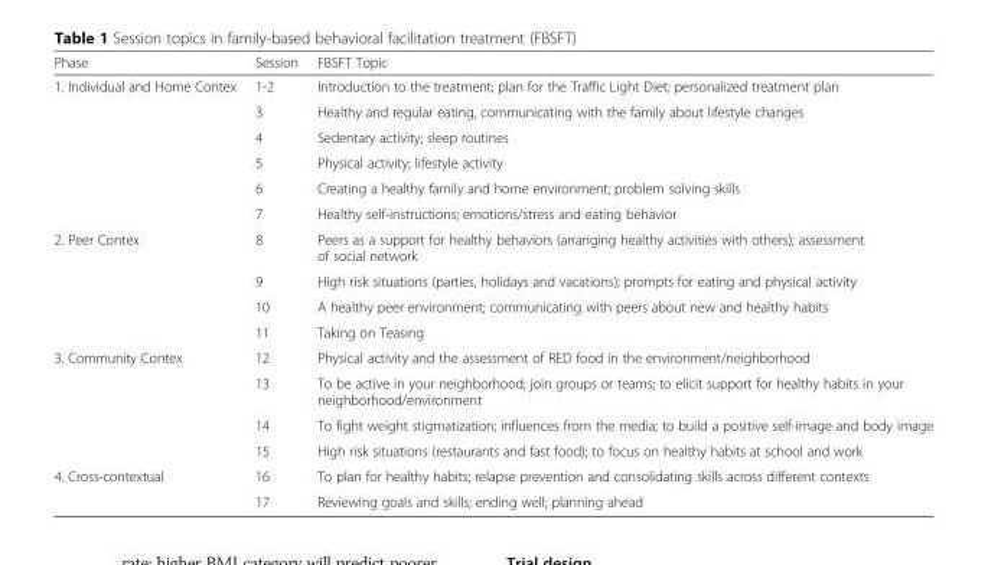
<table><thead><tr><td>Phase</td><td>Session</td><td>FBSFT Topic</td></tr></thead><tbody><tr><td rowspan="6">1. Individual and Home Contex</td><td>1-2</td><td>Introduction to the treatment; plan for the Traffic Light Diet; personalized treatment plan</td></tr><tr><td>3</td><td>Healthy and regular eating, communicating with the family about lifestyle changes</td></tr><tr><td>4</td><td>Sedentary activity; sleep routines</td></tr><tr><td>5</td><td>Physical activity; lifestyle activity</td></tr><tr><td>6</td><td>Creating a healthy family and home environment; problem solving skills</td></tr><tr><td>7</td><td>Healthy self-instructions; emotions/stress and eating behavior</td></tr><tr><td rowspan="4">2. Peer Contex</td><td>8</td><td>Peers as a support for healthy behaviors (arranging healthy activities with others); assessment of social network</td></tr><tr><td>9</td><td>High risk situations (parties, holidays and vacations); prompts for eating and physical activity</td></tr><tr><td>10</td><td>A healthy peer environment; communicating with peers about new and healthy habits</td></tr><tr><td>11</td><td>Taking on Teasing</td></tr><tr><td rowspan="4">3. Community Contex</td><td>12</td><td>Physical activity and the assessment of RED food in the environment/neighborhood</td></tr><tr><td>13</td><td>To be active in your neighborhood; join groups or teams; to elicit support for healthy habits in your neighborhood/environment</td></tr><tr><td>14</td><td>To fight weight stigmatization; influences from the media; to build a positive self-image and body image</td></tr><tr><td>15</td><td>High risk situations (restaurants and fast food); to focus on healthy habits at school and work</td></tr><tr><td rowspan="2">4. Cross-contextual</td><td>16</td><td>To plan for healthy habits; relapse prevention and consolidating skills across different contexts</td></tr><tr><td>17</td><td>Reviewing goals and skills; ending well; planning ahead</td></tr></tbody></table>